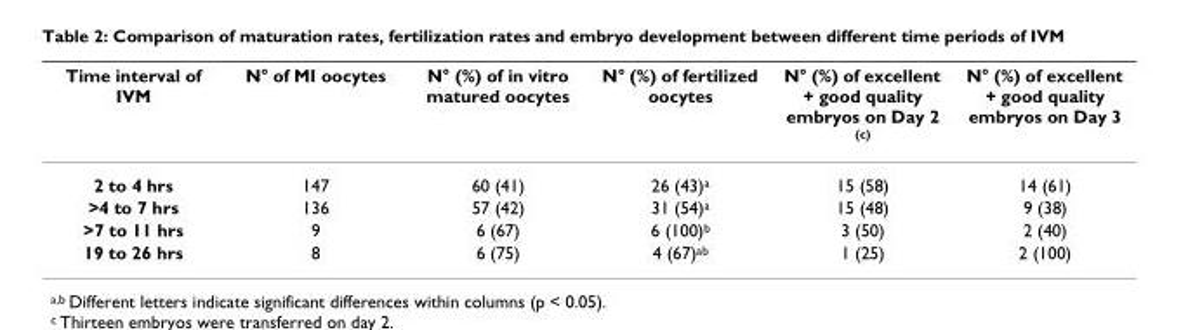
<table><thead><tr><td>Time interval of IVM</td><td>N° of MI oocytes</td><td>N° (%) of in vitro matured oocytes</td><td>N° (%) of fertilized oocytes</td><td>N° (%) of excellent + good quality embryos on Day 2 <sup>(c)</sup></td><td>N° (%) of excellent + good quality embryos on Day 3</td></tr></thead><tbody><tr><td>2 to 4 hrs</td><td>147</td><td>60 (41)</td><td>26 (43)<sup>a</sup></td><td>15 (58)</td><td>14 (61)</td></tr><tr><td>&gt;4 to 7 hrs</td><td>136</td><td>57 (42)</td><td>31 (54)<sup>a</sup></td><td>15 (48)</td><td>9 (38)</td></tr><tr><td>&gt;7 to 11 hrs</td><td>9</td><td>6 (67)</td><td>6 (100)<sup>b</sup></td><td>3 (50)</td><td>2 (40)</td></tr><tr><td>19 to 26 hrs</td><td>8</td><td>6 (75)</td><td>4 (67)<sup>ab</sup></td><td>1 (25)</td><td>2 (100)</td></tr></tbody></table>